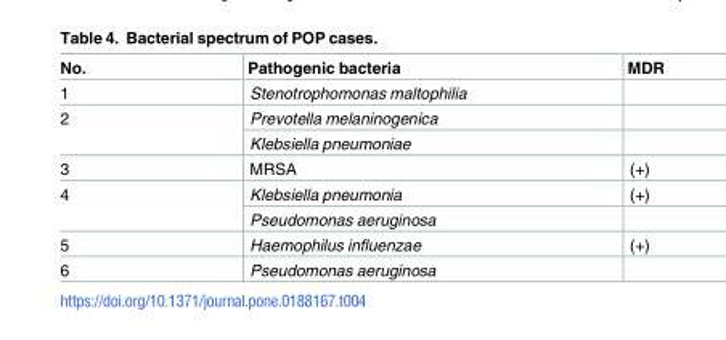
<table><thead><tr><td>No.</td><td>Pathogenic bacteria</td><td>MDR</td></tr></thead><tbody><tr><td>1</td><td>Stenotrophomonas maltophilia</td><td></td></tr><tr><td rowspan="2">2</td><td>Prevotella melaninogenica</td><td></td></tr><tr><td>Klebsiella pneumoniae</td><td></td></tr><tr><td>3</td><td>MRSA</td><td>(+)</td></tr><tr><td rowspan="2">4</td><td>Klebsiella pneumonia</td><td>(+)</td></tr><tr><td>Pseudomonas aeruginosa</td><td></td></tr><tr><td>5</td><td>Haemophilus influenzae</td><td>(+)</td></tr><tr><td>6</td><td>Pseudomonas aeruginosa</td><td></td></tr></tbody></table>